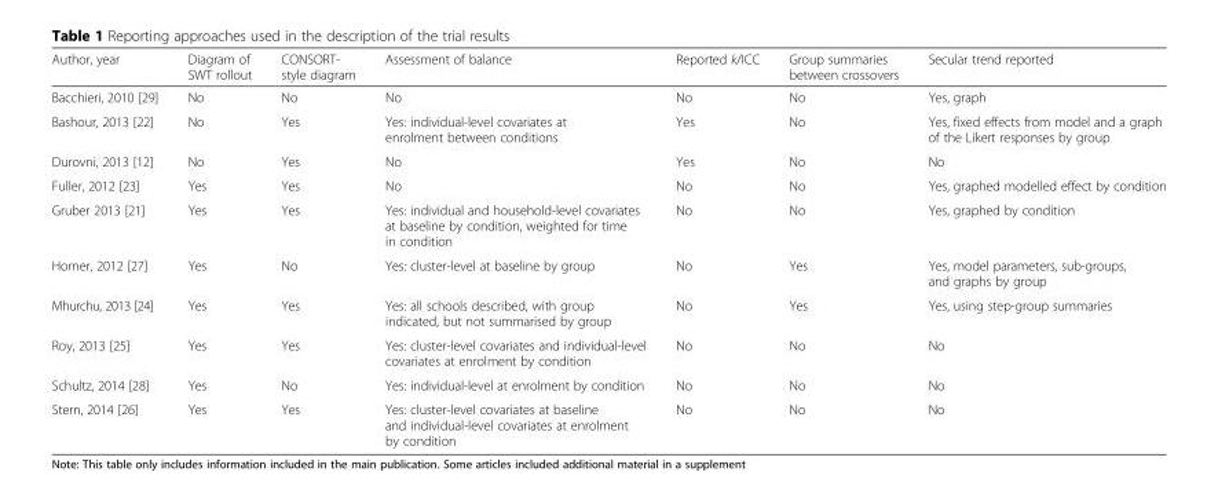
<table><thead><tr><td>Author, year</td><td>Diagram of SWT rollout</td><td>CONSORT- style diagram</td><td>Assessment of balance</td><td>Reported k/ICC</td><td>Group summaries between crossovers</td><td>Secular trend reported</td></tr></thead><tbody><tr><td>Bacchieri, 2010 [29]</td><td>No</td><td>No</td><td>No</td><td>No</td><td>No</td><td>Yes, graph</td></tr><tr><td>Bashour, 2013 [22]</td><td>No</td><td>Yes</td><td>Yes: individual-level covariates at enrolment between conditions</td><td>Yes</td><td>No</td><td>Yes, fixed effects from model and a graph of the Likert responses by group</td></tr><tr><td>Durovni, 2013 [12]</td><td>No</td><td>Yes</td><td>No</td><td>Yes</td><td>No</td><td>No</td></tr><tr><td>Fuller, 2012 [23]</td><td>Yes</td><td>Yes</td><td>No</td><td>No</td><td>No</td><td>Yes, graphed modelled effect by condition</td></tr><tr><td>Gruber 2013 [21]</td><td>Yes</td><td>Yes</td><td>Yes: individual and household-level covariates at baseline by condition, weighted for time in condition</td><td>No</td><td>No</td><td>Yes, graphed by condition</td></tr><tr><td>Horner, 2012 [27]</td><td>Yes</td><td>No</td><td>Yes: cluster-level at baseline by group</td><td>No</td><td>Yes</td><td>Yes, model parameters, sub-groups, and graphs by group</td></tr><tr><td>Mhurchu, 2013 [24]</td><td>Yes</td><td>Yes</td><td>Yes: all schools described, with group indicated, but not summarised by group</td><td>No</td><td>Yes</td><td>Yes, using step-group summaries</td></tr><tr><td>Roy, 2013 [25]</td><td>Yes</td><td>Yes</td><td>Yes: cluster-level covariates and individual-level covariates at enrolment by condition</td><td>No</td><td>No</td><td>No</td></tr><tr><td>Schultz, 2014 [28]</td><td>Yes</td><td>No</td><td>Yes: individual-level at enrolment by condition</td><td>No</td><td>No</td><td>No</td></tr><tr><td>Stern, 2014 [26]</td><td>Yes</td><td>Yes</td><td>Yes: cluster-level covariates at baseline and individual-level covariates at enrolment by condition</td><td>No</td><td>No</td><td>No</td></tr></tbody></table>